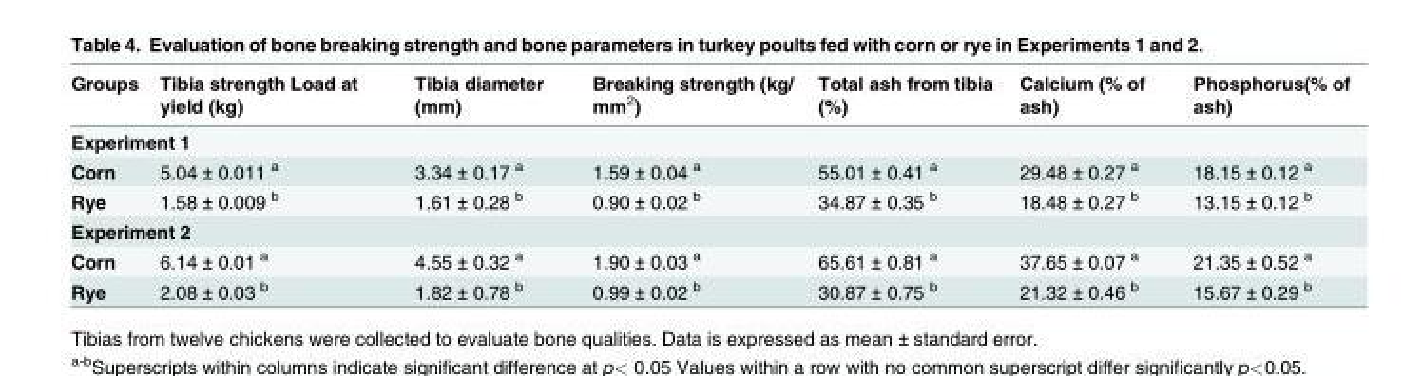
<table><thead><tr><td>Groups</td><td>Tibia strength Load at yield (kg)</td><td>Tibia diameter (mm)</td><td>Breaking strength (kg/ mm<sup>2</sup>)</td><td>Total ash from tibia (%)</td><td>Calcium (% of ash)</td><td>Phosphorus(% of ash)</td></tr></thead><tbody><tr><td colspan="7">Experiment 1</td></tr><tr><td>Corn</td><td>5.04 ± 0.011 <sup>a</sup></td><td>3.34 ± 0.17 <sup>a</sup></td><td>1.59 ± 0.04 <sup>a</sup></td><td>55.01 ± 0.41 <sup>a</sup></td><td>29.48 ± 0.27 <sup>a</sup></td><td>18.15 ± 0.12 <sup>a</sup></td></tr><tr><td>Rye</td><td>1.58 ± 0.009 <sup>b</sup></td><td>1.61 ± 0.28 <sup>b</sup></td><td>0.90 ± 0.02 <sup>b</sup></td><td>34.87 ± 0.35 <sup>b</sup></td><td>18.48 ± 0.27 <sup>b</sup></td><td>13.15 ± 0.12 <sup>b</sup></td></tr><tr><td colspan="7">Experiment 2</td></tr><tr><td>Corn</td><td>6.14 ± 0.01 <sup>a</sup></td><td>4.55 ± 0.32 <sup>a</sup></td><td>1.90 ± 0.03 <sup>a</sup></td><td>65.61 ± 0.81 <sup>a</sup></td><td>37.65 ± 0.07 <sup>a</sup></td><td>21.35 ± 0.52 <sup>a</sup></td></tr><tr><td>Rye</td><td>2.08 ± 0.03 <sup>b</sup></td><td>1.82 ± 0.78 <sup>b</sup></td><td>0.99 ± 0.02 <sup>b</sup></td><td>30.87 ± 0.75 <sup>b</sup></td><td>21.32 ± 0.46 <sup>b</sup></td><td>15.67 ± 0.29 <sup>b</sup></td></tr></tbody></table>